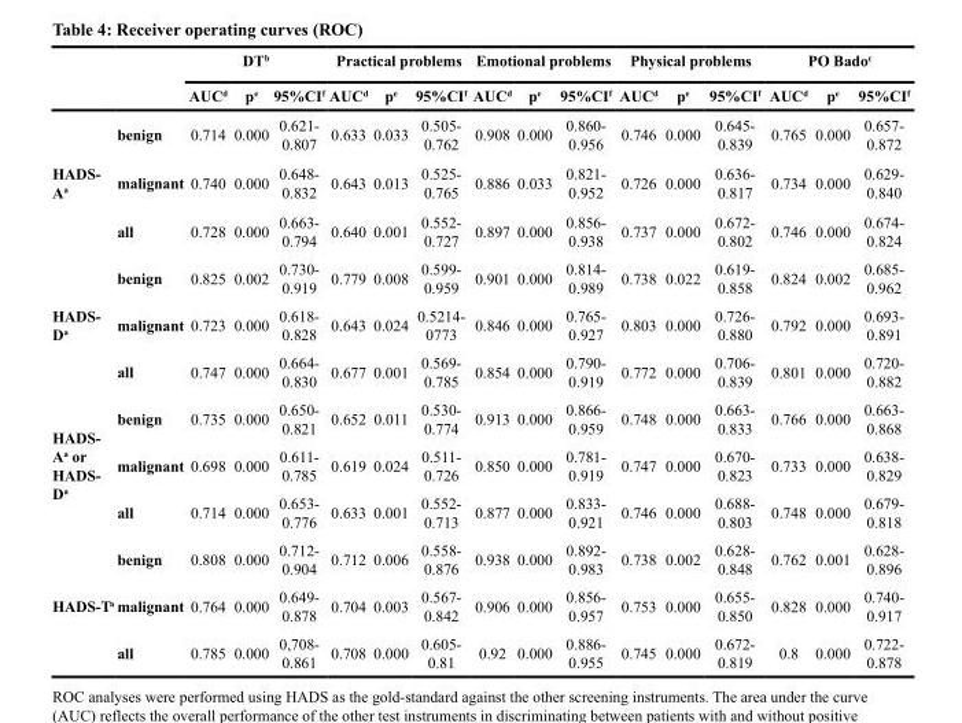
<table><thead><tr><td rowspan="2"></td><td rowspan="2"></td><td colspan="3">DT<sup>b</sup></td><td colspan="3">Practical problems</td><td colspan="3">Emotional problems</td><td colspan="3">Physical problems</td><td colspan="3">PO Bado<sup>c</sup></td></tr><tr><td>AUC<sup>d</sup></td><td>p<sup>e</sup></td><td>95%CI<sup>f</sup></td><td>AUC<sup>d</sup></td><td>p<sup>e</sup></td><td>95%CI<sup>f</sup></td><td>AUC<sup>d</sup></td><td>p<sup>e</sup></td><td>95%CI<sup>f</sup></td><td>AUC<sup>d</sup></td><td>p<sup>e</sup></td><td>95%CI<sup>f</sup></td><td>AUC<sup>d</sup></td><td>p<sup>e</sup></td><td>95%CI<sup>f</sup></td></tr></thead><tbody><tr><td rowspan="3">HADS- A<sup>a</sup></td><td>benign</td><td>0.714</td><td>0.000</td><td>0.621- 0.807</td><td>0.633</td><td>0.033</td><td>0.505- 0.762</td><td>0.908</td><td>0.000</td><td>0.860- 0.956</td><td>0.746</td><td>0.000</td><td>0.645- 0.839</td><td>0.765</td><td>0.000</td><td>0.657- 0.872</td></tr><tr><td>malignant</td><td>0.740</td><td>0.000</td><td>0.648- 0.832</td><td>0.643</td><td>0.013</td><td>0.525- 0.765</td><td>0.886</td><td>0.033</td><td>0.821- 0.952</td><td>0.726</td><td>0.000</td><td>0.636- 0.817</td><td>0.734</td><td>0.000</td><td>0.629- 0.840</td></tr><tr><td>all</td><td>0.728</td><td>0.000</td><td>0.663- 0.794</td><td>0.640</td><td>0.001</td><td>0.552- 0.727</td><td>0.897</td><td>0.000</td><td>0.856- 0.938</td><td>0.737</td><td>0.000</td><td>0.672- 0.802</td><td>0.746</td><td>0.000</td><td>0.674- 0.824</td></tr><tr><td rowspan="3">HADS- D<sup>a</sup></td><td>benign</td><td>0.825</td><td>0.002</td><td>0.730- 0.919</td><td>0.779</td><td>0.008</td><td>0.599- 0.959</td><td>0.901</td><td>0.000</td><td>0.814- 0.989</td><td>0.738</td><td>0.022</td><td>0.619- 0.858</td><td>0.824</td><td>0.002</td><td>0.685- 0.962</td></tr><tr><td>malignant</td><td>0.723</td><td>0.000</td><td>0.618- 0.828</td><td>0.643</td><td>0.024</td><td>0.5214- 0773</td><td>0.846</td><td>0.000</td><td>0.765- 0.927</td><td>0.803</td><td>0.000</td><td>0.726- 0.880</td><td>0.792</td><td>0.000</td><td>0.693- 0.891</td></tr><tr><td>all</td><td>0.747</td><td>0.000</td><td>0.664- 0.830</td><td>0.677</td><td>0.001</td><td>0.569- 0.785</td><td>0.854</td><td>0.000</td><td>0.790- 0.919</td><td>0.772</td><td>0.000</td><td>0.706- 0.839</td><td>0.801</td><td>0.000</td><td>0.720- 0.882</td></tr><tr><td rowspan="3">HADS- A<sup>a</sup> or HADS- D<sup>a</sup></td><td>benign</td><td>0.735</td><td>0.000</td><td>0.650- 0.821</td><td>0.652</td><td>0.011</td><td>0.530- 0.774</td><td>0.913</td><td>0.000</td><td>0.866- 0.959</td><td>0.748</td><td>0.000</td><td>0.663- 0.833</td><td>0.766</td><td>0.000</td><td>0.663- 0.868</td></tr><tr><td>malignant</td><td>0.698</td><td>0.000</td><td>0.611- 0.785</td><td>0.619</td><td>0.024</td><td>0.511- 0.726</td><td>0.850</td><td>0.000</td><td>0.781- 0.919</td><td>0.747</td><td>0.000</td><td>0.670- 0.823</td><td>0.733</td><td>0.000</td><td>0.638- 0.829</td></tr><tr><td>all</td><td>0.714</td><td>0.000</td><td>0.653- 0.776</td><td>0.633</td><td>0.001</td><td>0.552- 0.713</td><td>0.877</td><td>0.000</td><td>0.833- 0.921</td><td>0.746</td><td>0.000</td><td>0.688- 0.803</td><td>0.748</td><td>0.000</td><td>0.679- 0.818</td></tr><tr><td rowspan="3">HADS-T<sup>a</sup></td><td>benign</td><td>0.808</td><td>0.000</td><td>0.712- 0.904</td><td>0.712</td><td>0.006</td><td>0.558- 0.876</td><td>0.938</td><td>0.000</td><td>0.892- 0.983</td><td>0.738</td><td>0.002</td><td>0.628- 0.848</td><td>0.762</td><td>0.001</td><td>0.628- 0.896</td></tr><tr><td>malignant</td><td>0.764</td><td>0.000</td><td>0.649- 0.878</td><td>0.704</td><td>0.003</td><td>0.567- 0.842</td><td>0.906</td><td>0.000</td><td>0.856- 0.957</td><td>0.753</td><td>0.000</td><td>0.655- 0.850</td><td>0.828</td><td>0.000</td><td>0.740- 0.917</td></tr><tr><td>all</td><td>0.785</td><td>0.000</td><td>0,708- 0.861</td><td>0.708</td><td>0.000</td><td>0.605- 0.81</td><td>0.92</td><td>0.000</td><td>0.886- 0.955</td><td>0.745</td><td>0.000</td><td>0.672- 0.819</td><td>0.8</td><td>0.000</td><td>0.722- 0.878</td></tr></tbody></table>